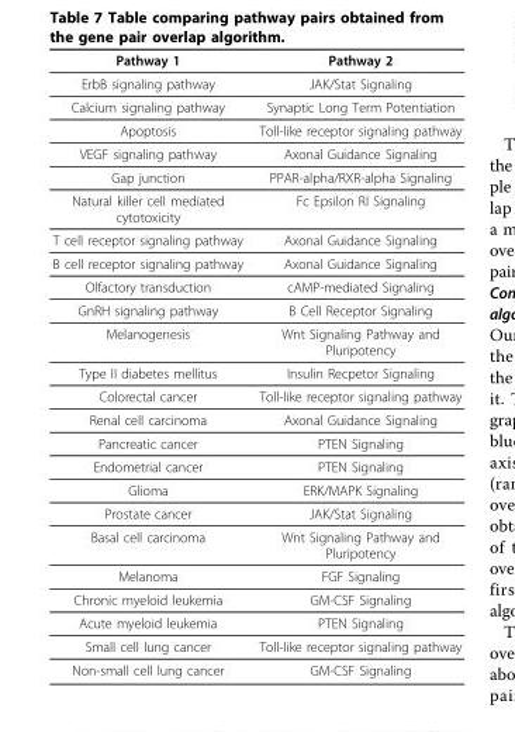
<table><thead><tr><td>Pathway 1</td><td>Pathway 2</td></tr></thead><tbody><tr><td>ErbB signaling pathway</td><td>JAK/Stat Signaling</td></tr><tr><td>Calcium signaling pathway</td><td>Synaptic Long Term Potentiation</td></tr><tr><td>Apoptosis</td><td>Toll-like receptor signaling pathway</td></tr><tr><td>VEGF signaling pathway</td><td>Axonal Guidance Signaling</td></tr><tr><td>Gap junction</td><td>PPAR-alpha/RXR-alpha Signaling</td></tr><tr><td>Natural killer cell mediated cytotoxicity</td><td>Fc Epsilon RI Signaling</td></tr><tr><td>T cell receptor signaling pathway</td><td>Axonal Guidance Signaling</td></tr><tr><td>B cell receptor signaling pathway</td><td>Axonal Guidance Signaling</td></tr><tr><td>Olfactory transduction</td><td>cAMP-mediated Signaling</td></tr><tr><td>GnRH signaling pathway</td><td>B Cell Receptor Signaling</td></tr><tr><td>Melanogenesis</td><td>Wnt Signaling Pathway and Pluripotency</td></tr><tr><td>Type II diabetes mellitus</td><td>Insulin Recpetor Signaling</td></tr><tr><td>Colorectal cancer</td><td>Toll-like receptor signaling pathway</td></tr><tr><td>Renal cell carcinoma</td><td>Axonal Guidance Signaling</td></tr><tr><td>Pancreatic cancer</td><td>PTEN Signaling</td></tr><tr><td>Endometrial cancer</td><td>PTEN Signaling</td></tr><tr><td>Glioma</td><td>ERK/MAPK Signaling</td></tr><tr><td>Prostate cancer</td><td>JAK/Stat Signaling</td></tr><tr><td>Basal cell carcinoma</td><td>Wnt Signaling Pathway and Pluripotency</td></tr><tr><td>Melanoma</td><td>FGF Signaling</td></tr><tr><td>Chronic myeloid leukemia</td><td>GM-CSF Signaling</td></tr><tr><td>Acute myeloid leukemia</td><td>PTEN Signaling</td></tr><tr><td>Small cell lung cancer</td><td>Toll-like receptor signaling pathway</td></tr><tr><td>Non-small cell lung cancer</td><td>GM-CSF Signaling</td></tr></tbody></table>